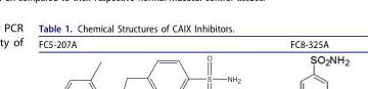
<table><thead><tr><td>FC5-207A</td><td>FC8-325A</td></tr></thead><tbody></tbody></table>